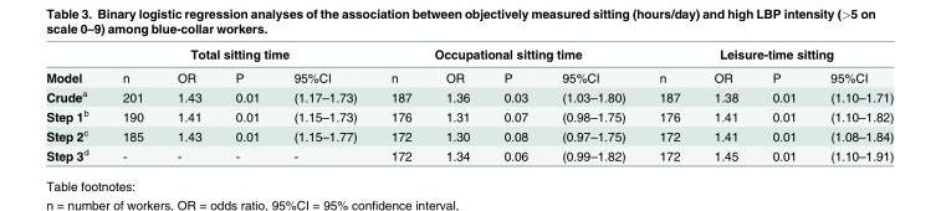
<table><thead><tr><td rowspan="2">Model</td><td colspan="4">Total sitting time</td><td colspan="4">Occupational sitting time</td><td colspan="4">Leisure-time sitting</td></tr><tr><td>n</td><td>OR</td><td>P</td><td>95%CI</td><td>n</td><td>OR</td><td>P</td><td>95%CI</td><td>n</td><td>OR</td><td>P</td><td>95%CI</td></tr></thead><tbody><tr><td>Crude<sup>a</sup></td><td>201</td><td>1.43</td><td>0.01</td><td>(1.17–1.73)</td><td>187</td><td>1.36</td><td>0.03</td><td>(1.03–1.80)</td><td>187</td><td>1.38</td><td>0.01</td><td>(1.10–1.71)</td></tr><tr><td>Step 1<sup>b</sup></td><td>190</td><td>1.41</td><td>0.01</td><td>(1.15–1.73)</td><td>176</td><td>1.31</td><td>0.07</td><td>(0.98–1.75)</td><td>176</td><td>1.41</td><td>0.01</td><td>(1.10–1.82)</td></tr><tr><td>Step 2<sup>c</sup></td><td>185</td><td>1.43</td><td>0.01</td><td>(1.15–1.77)</td><td>172</td><td>1.30</td><td>0.08</td><td>(0.97–1.75)</td><td>172</td><td>1.41</td><td>0.01</td><td>(1.08–1.84)</td></tr><tr><td>Step 3<sup>d</sup></td><td>-</td><td>-</td><td>-</td><td>-</td><td>172</td><td>1.34</td><td>0.06</td><td>(0.99–1.82)</td><td>172</td><td>1.45</td><td>0.01</td><td>(1.10–1.91)</td></tr></tbody></table>